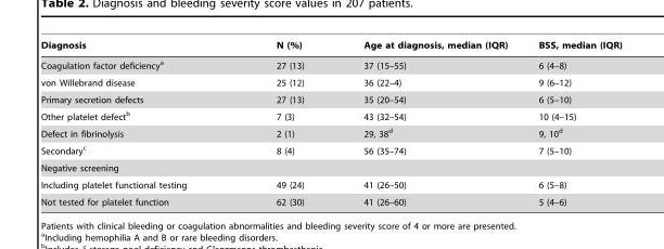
<table><thead><tr><td>Diagnosis</td><td>N (%)</td><td>Age at diagnosis, median (IQR)</td><td>BSS, median (IQR)</td></tr></thead><tbody><tr><td>Coagulation factor deficiency<sup>a</sup></td><td>27 (13)</td><td>37 (15–55)</td><td>6 (4–8)</td></tr><tr><td>von Willebrand disease</td><td>25 (12)</td><td>36 (22–4)</td><td>9 (6–12)</td></tr><tr><td>Primary secretion defects</td><td>27 (13)</td><td>35 (20–54)</td><td>6 (5–10)</td></tr><tr><td>Other platelet defect<sup>b</sup></td><td>7 (3)</td><td>43 (32–54)</td><td>10 (4–15)</td></tr><tr><td>Defect in fibrinolysis</td><td>2 (1)</td><td>29, 38<sup>d</sup></td><td>9, 10<sup>d</sup></td></tr><tr><td>Secondary<sup>c</sup></td><td>8 (4)</td><td>56 (35–74)</td><td>7 (5–10)</td></tr><tr><td colspan="4">Negative screening</td></tr><tr><td>Including platelet functional testing</td><td>49 (24)</td><td>41 (26–50)</td><td>6 (5–8)</td></tr><tr><td>Not tested for platelet function</td><td>62 (30)</td><td>41 (26–60)</td><td>5 (4–6)</td></tr></tbody></table>